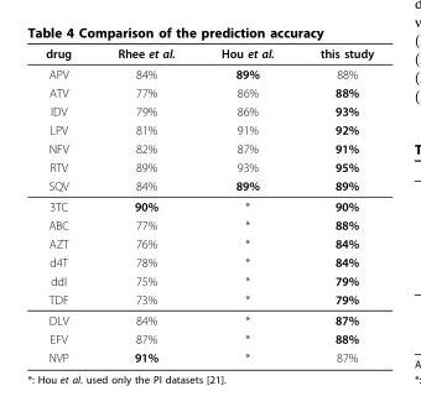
<table><thead><tr><td>drug</td><td>Rhee et al.</td><td>Hou et al.</td><td>this study</td></tr></thead><tbody><tr><td>APV</td><td>84%</td><td>89%</td><td>88%</td></tr><tr><td>ATV</td><td>77%</td><td>86%</td><td>88%</td></tr><tr><td>IDV</td><td>79%</td><td>86%</td><td>93%</td></tr><tr><td>LPV</td><td>81%</td><td>91%</td><td>92%</td></tr><tr><td>NFV</td><td>82%</td><td>87%</td><td>91%</td></tr><tr><td>RTV</td><td>89%</td><td>93%</td><td>95%</td></tr><tr><td>SQV</td><td>84%</td><td>89%</td><td>89%</td></tr><tr><td>3TC</td><td>90%</td><td>*</td><td>90%</td></tr><tr><td>ABC</td><td>77%</td><td>*</td><td>88%</td></tr><tr><td>AZT</td><td>76%</td><td>*</td><td>84%</td></tr><tr><td>d4T</td><td>78%</td><td>*</td><td>84%</td></tr><tr><td>ddI</td><td>75%</td><td>*</td><td>79%</td></tr><tr><td>TDF</td><td>73%</td><td>*</td><td>79%</td></tr><tr><td>DLV</td><td>84%</td><td>*</td><td>87%</td></tr><tr><td>EFV</td><td>87%</td><td>*</td><td>88%</td></tr><tr><td>NVP</td><td>91%</td><td>*</td><td>87%</td></tr></tbody></table>